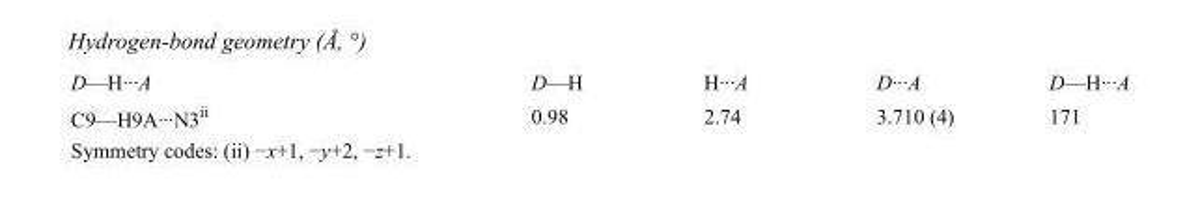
<table><tbody><tr><td>D—H···A</td><td>D—H</td><td>H···A</td><td>D···A</td><td>D—H···A</td></tr><tr><td>C9—H9A···N3<sup>ii</sup></td><td>0.98</td><td>2.74</td><td>3.710 (4)</td><td>171</td></tr></tbody></table>